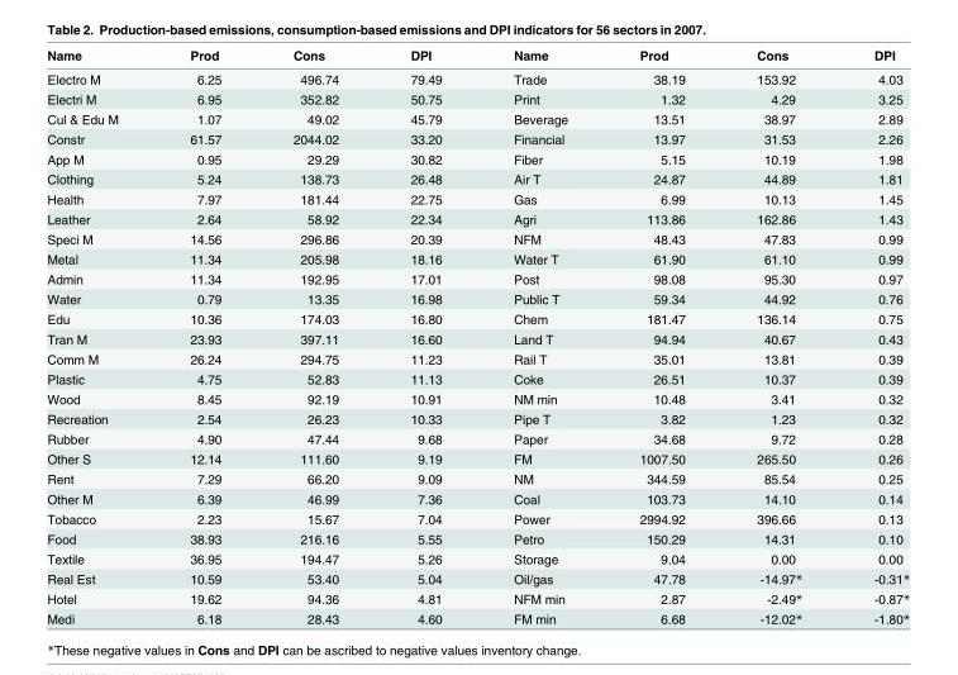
<table><thead><tr><td>Name</td><td>Prod</td><td>Cons</td><td>DPI</td><td>Name</td><td>Prod</td><td>Cons</td><td>DPI</td></tr></thead><tbody><tr><td>Electro M</td><td>6.25</td><td>496.74</td><td>79.49</td><td>Trade</td><td>38.19</td><td>153.92</td><td>4.03</td></tr><tr><td>Electri M</td><td>6.95</td><td>352.82</td><td>50.75</td><td>Print</td><td>1.32</td><td>4.29</td><td>3.25</td></tr><tr><td>Cul &amp; Edu M</td><td>1.07</td><td>49.02</td><td>45.79</td><td>Beverage</td><td>13.51</td><td>38.97</td><td>2.89</td></tr><tr><td>Constr</td><td>61.57</td><td>2044.02</td><td>33.20</td><td>Financial</td><td>13.97</td><td>31.53</td><td>2.26</td></tr><tr><td>App M</td><td>0.95</td><td>29.29</td><td>30.82</td><td>Fiber</td><td>5.15</td><td>10.19</td><td>1.98</td></tr><tr><td>Clothing</td><td>5.24</td><td>138.73</td><td>26.48</td><td>Air T</td><td>24.87</td><td>44.89</td><td>1.81</td></tr><tr><td>Health</td><td>7.97</td><td>181.44</td><td>22.75</td><td>Gas</td><td>6.99</td><td>10.13</td><td>1.45</td></tr><tr><td>Leather</td><td>2.64</td><td>58.92</td><td>22.34</td><td>Agri</td><td>113.86</td><td>162.86</td><td>1.43</td></tr><tr><td>Speci M</td><td>14.56</td><td>296.86</td><td>20.39</td><td>NFM</td><td>48.43</td><td>47.83</td><td>0.99</td></tr><tr><td>Metal</td><td>11.34</td><td>205.98</td><td>18.16</td><td>Water T</td><td>61.90</td><td>61.10</td><td>0.99</td></tr><tr><td>Admin</td><td>11.34</td><td>192.95</td><td>17.01</td><td>Post</td><td>98.08</td><td>95.30</td><td>0.97</td></tr><tr><td>Water</td><td>0.79</td><td>13.35</td><td>16.98</td><td>Public T</td><td>59.34</td><td>44.92</td><td>0.76</td></tr><tr><td>Edu</td><td>10.36</td><td>174.03</td><td>16.80</td><td>Chem</td><td>181.47</td><td>136.14</td><td>0.75</td></tr><tr><td>Tran M</td><td>23.93</td><td>397.11</td><td>16.60</td><td>Land T</td><td>94.94</td><td>40.67</td><td>0.43</td></tr><tr><td>Comm M</td><td>26.24</td><td>294.75</td><td>11.23</td><td>Rail T</td><td>35.01</td><td>13.81</td><td>0.39</td></tr><tr><td>Plastic</td><td>4.75</td><td>52.83</td><td>11.13</td><td>Coke</td><td>26.51</td><td>10.37</td><td>0.39</td></tr><tr><td>Wood</td><td>8.45</td><td>92.19</td><td>10.91</td><td>NM min</td><td>10.48</td><td>3.41</td><td>0.32</td></tr><tr><td>Recreation</td><td>2.54</td><td>26.23</td><td>10.33</td><td>Pipe T</td><td>3.82</td><td>1.23</td><td>0.32</td></tr><tr><td>Rubber</td><td>4.90</td><td>47.44</td><td>9.68</td><td>Paper</td><td>34.68</td><td>9.72</td><td>0.28</td></tr><tr><td>Other S</td><td>12.14</td><td>111.60</td><td>9.19</td><td>FM</td><td>1007.50</td><td>265.50</td><td>0.26</td></tr><tr><td>Rent</td><td>7.29</td><td>66.20</td><td>9.09</td><td>NM</td><td>344.59</td><td>85.54</td><td>0.25</td></tr><tr><td>Other M</td><td>6.39</td><td>46.99</td><td>7.36</td><td>Coal</td><td>103.73</td><td>14.10</td><td>0.14</td></tr><tr><td>Tobacco</td><td>2.23</td><td>15.67</td><td>7.04</td><td>Power</td><td>2994.92</td><td>396.66</td><td>0.13</td></tr><tr><td>Food</td><td>38.93</td><td>216.16</td><td>5.55</td><td>Petro</td><td>150.29</td><td>14.31</td><td>0.10</td></tr><tr><td>Textile</td><td>36.95</td><td>194.47</td><td>5.26</td><td>Storage</td><td>9.04</td><td>0.00</td><td>0.00</td></tr><tr><td>Real Est</td><td>10.59</td><td>53.40</td><td>5.04</td><td>Oil/gas</td><td>47.78</td><td>-14.97*</td><td>-0.31*</td></tr><tr><td>Hotel</td><td>19.62</td><td>94.36</td><td>4.81</td><td>NFM min</td><td>2.87</td><td>-2.49*</td><td>-0.87*</td></tr><tr><td>Medi</td><td>6.18</td><td>28.43</td><td>4.60</td><td>FM min</td><td>6.68</td><td>-12.02*</td><td>-1.80*</td></tr></tbody></table>